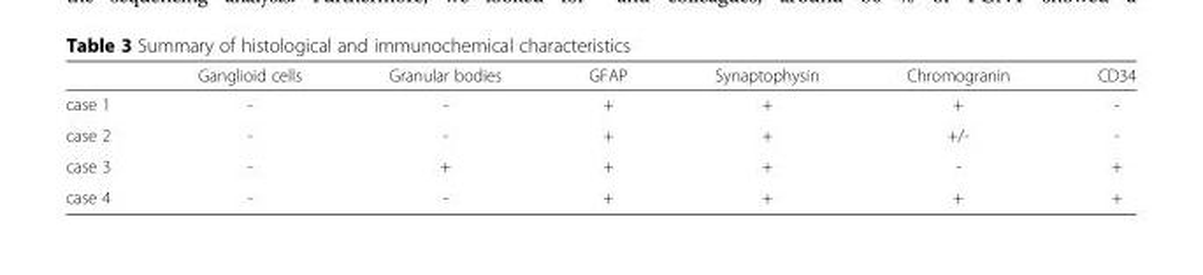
<table><thead><tr><td></td><td>Ganglioid cells</td><td>Granular bodies</td><td>GFAP</td><td>Synaptophysin</td><td>Chromogranin</td><td>CD34</td></tr></thead><tbody><tr><td>case 1</td><td>-</td><td>-</td><td>+</td><td>+</td><td>+</td><td>-</td></tr><tr><td>case 2</td><td>-</td><td>-</td><td>+</td><td>+</td><td>+/-</td><td>-</td></tr><tr><td>case 3</td><td>-</td><td>+</td><td>+</td><td>+</td><td>-</td><td>+</td></tr><tr><td>case 4</td><td>-</td><td>-</td><td>+</td><td>+</td><td>+</td><td>+</td></tr></tbody></table>